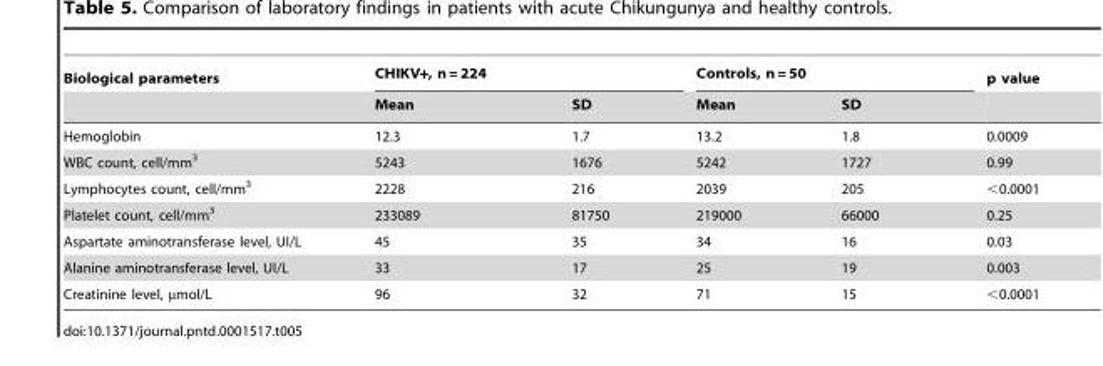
<table><thead><tr><td rowspan="2">Biological parameters</td><td colspan="2">CHIKV+, n = 224</td><td colspan="2">Controls, n = 50</td><td rowspan="2">p value</td></tr><tr><td>Mean</td><td>SD</td><td>Mean</td><td>SD</td></tr></thead><tbody><tr><td>Hemoglobin</td><td>12.3</td><td>1.7</td><td>13.2</td><td>1.8</td><td>0.0009</td></tr><tr><td>WBC count, cell/mm<sup>3</sup></td><td>5243</td><td>1676</td><td>5242</td><td>1727</td><td>0.99</td></tr><tr><td>Lymphocytes count, cell/mm<sup>3</sup></td><td>2228</td><td>216</td><td>2039</td><td>205</td><td>&lt;0.0001</td></tr><tr><td>Platelet count, cell/mm<sup>3</sup></td><td>233089</td><td>81750</td><td>219000</td><td>66000</td><td>0.25</td></tr><tr><td>Aspartate aminotransferase level, UI/L</td><td>45</td><td>35</td><td>34</td><td>16</td><td>0.03</td></tr><tr><td>Alanine aminotransferase level, UI/L</td><td>33</td><td>17</td><td>25</td><td>19</td><td>0.003</td></tr><tr><td>Creatinine level, µmol/L</td><td>96</td><td>32</td><td>71</td><td>15</td><td>&lt;0.0001</td></tr></tbody></table>